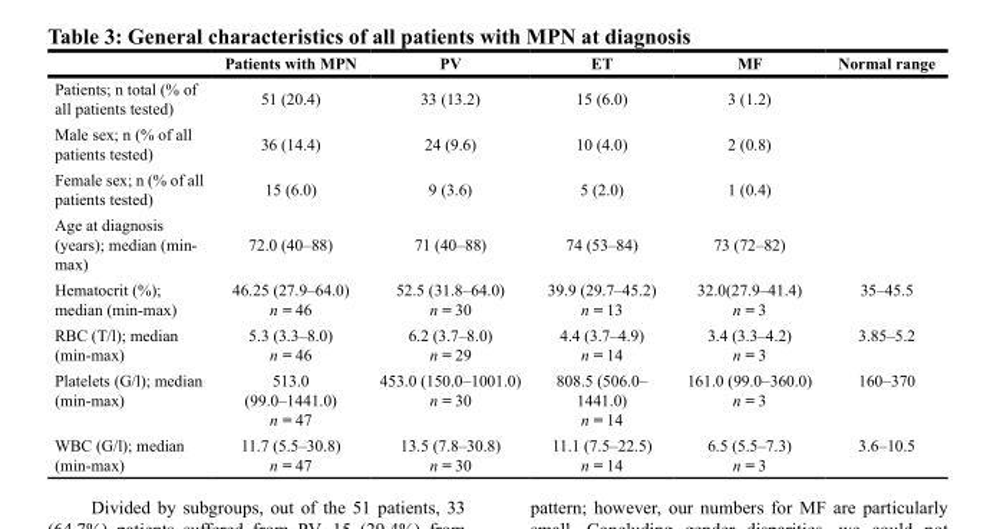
<table><thead><tr><td></td><td>Patients with MPN</td><td>PV</td><td>ET</td><td>MF</td><td>Normal range</td></tr></thead><tbody><tr><td>Patients; n total (% of all patients tested)</td><td>51 (20.4)</td><td>33 (13.2)</td><td>15 (6.0)</td><td>3 (1.2)</td><td></td></tr><tr><td>Male sex; n (% of all patients tested)</td><td>36 (14.4)</td><td>24 (9.6)</td><td>10 (4.0)</td><td>2 (0.8)</td><td></td></tr><tr><td>Female sex; n (% of all patients tested)</td><td>15 (6.0)</td><td>9 (3.6)</td><td>5 (2.0)</td><td>1 (0.4)</td><td></td></tr><tr><td>Age at diagnosis (years); median (min- max)</td><td>72.0 (40–88)</td><td>71 (40–88)</td><td>74 (53–84)</td><td>73 (72–82)</td><td></td></tr><tr><td>Hematocrit (%); median (min-max)</td><td>46.25 (27.9–64.0) n = 46</td><td>52.5 (31.8–64.0) n = 30</td><td>39.9 (29.7–45.2) n = 13</td><td>32.0(27.9–41.4) n = 3</td><td>35–45.5</td></tr><tr><td>RBC (T/l); median (min-max)</td><td>5.3 (3.3–8.0) n = 46</td><td>6.2 (3.7–8.0) n = 29</td><td>4.4 (3.7–4.9) n = 14</td><td>3.4 (3.3–4.2) n = 3</td><td>3.85–5.2</td></tr><tr><td>Platelets (G/l); median (min-max)</td><td>513.0 (99.0–1441.0) n = 47</td><td>453.0 (150.0–1001.0) n = 30</td><td>808.5 (506.0– 1441.0) n = 14</td><td>161.0 (99.0–360.0) n = 3</td><td>160–370</td></tr><tr><td>WBC (G/l); median (min-max)</td><td>11.7 (5.5–30.8) n = 47</td><td>13.5 (7.8–30.8) n = 30</td><td>11.1 (7.5–22.5) n = 14</td><td>6.5 (5.5–7.3) n = 3</td><td>3.6–10.5</td></tr></tbody></table>